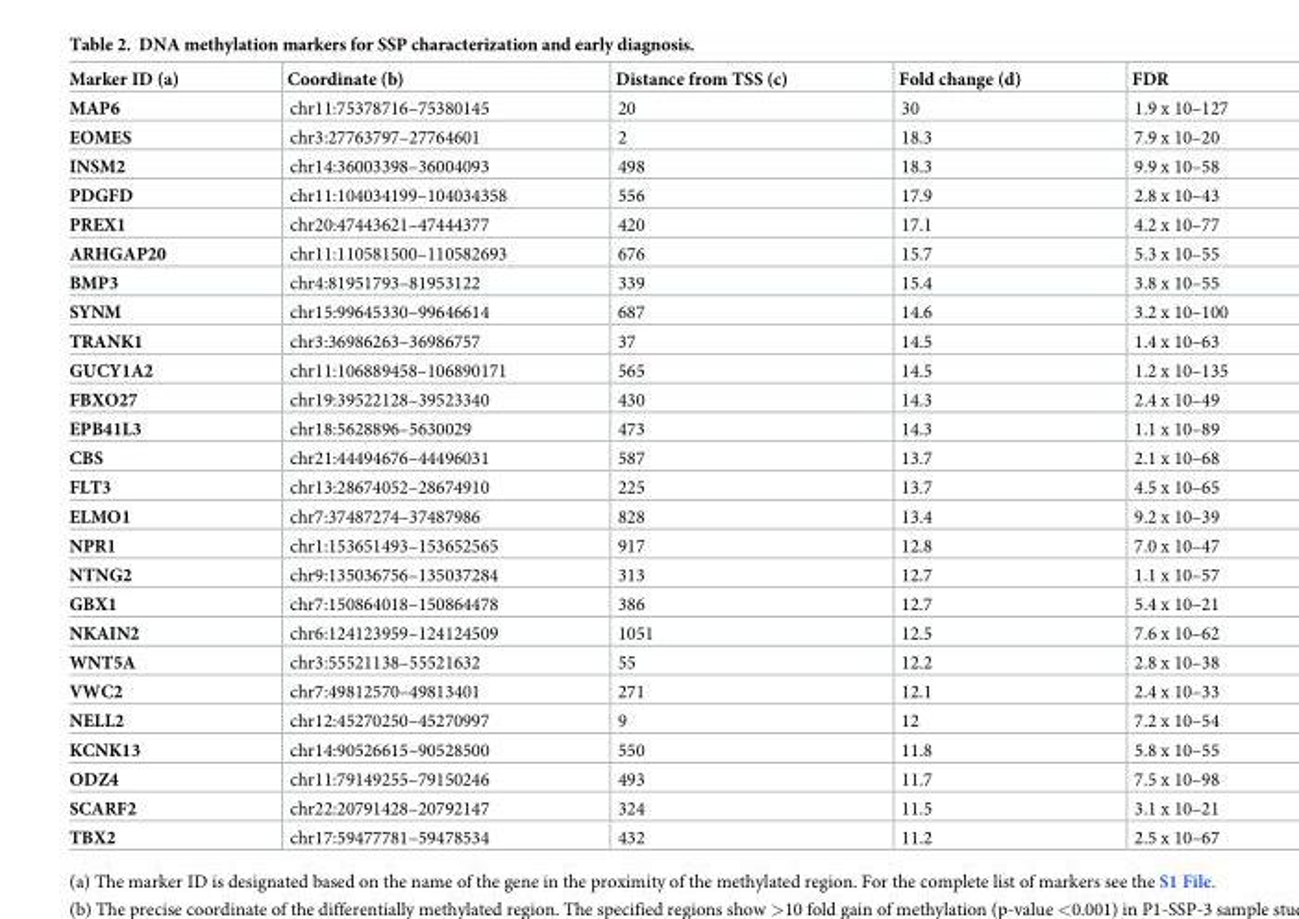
<table><thead><tr><td>Marker ID (a)</td><td>Coordinate (b)</td><td>Distance from TSS (c)</td><td>Fold change (d)</td><td>FDR</td></tr></thead><tbody><tr><td>MAP6</td><td>chr11:75378716–75380145</td><td>20</td><td>30</td><td>1.9 x 10–127</td></tr><tr><td>EOMES</td><td>chr3:27763797–27764601</td><td>2</td><td>18.3</td><td>7.9 x 10–20</td></tr><tr><td>INSM2</td><td>chr14:36003398–36004093</td><td>498</td><td>18.3</td><td>9.9 x 10–58</td></tr><tr><td>PDGFD</td><td>chr11:104034199–104034358</td><td>556</td><td>17.9</td><td>2.8 x 10–43</td></tr><tr><td>PREX1</td><td>chr20:47443621–47444377</td><td>420</td><td>17.1</td><td>4.2 x 10–77</td></tr><tr><td>ARHGAP20</td><td>chr11:110581500–110582693</td><td>676</td><td>15.7</td><td>5.3 x 10–55</td></tr><tr><td>BMP3</td><td>chr4:81951793–81953122</td><td>339</td><td>15.4</td><td>3.8 x 10–55</td></tr><tr><td>SYNM</td><td>chr15:99645330–99646614</td><td>687</td><td>14.6</td><td>3.2 x 10–100</td></tr><tr><td>TRANK1</td><td>chr3:36986263–36986757</td><td>37</td><td>14.5</td><td>1.4 x 10–63</td></tr><tr><td>GUCY1A2</td><td>chr11:106889458–106890171</td><td>565</td><td>14.5</td><td>1.2 x 10–135</td></tr><tr><td>FBXO27</td><td>chr19:39522128–39523340</td><td>430</td><td>14.3</td><td>2.4 x 10–49</td></tr><tr><td>EPB41L3</td><td>chr18:5628896–5630029</td><td>473</td><td>14.3</td><td>1.1 x 10–89</td></tr><tr><td>CBS</td><td>chr21:44494676–44496031</td><td>587</td><td>13.7</td><td>2.1 x 10–68</td></tr><tr><td>FLT3</td><td>chr13:28674052–28674910</td><td>225</td><td>13.7</td><td>4.5 x 10–65</td></tr><tr><td>ELMO1</td><td>chr7:37487274–37487986</td><td>828</td><td>13.4</td><td>9.2 x 10–39</td></tr><tr><td>NPR1</td><td>chr1:153651493–153652565</td><td>917</td><td>12.8</td><td>7.0 x 10–47</td></tr><tr><td>NTNG2</td><td>chr9:135036756–135037284</td><td>313</td><td>12.7</td><td>1.1 x 10–57</td></tr><tr><td>GBX1</td><td>chr7:150864018–150864478</td><td>386</td><td>12.7</td><td>5.4 x 10–21</td></tr><tr><td>NKAIN2</td><td>chr6:124123959–124124509</td><td>1051</td><td>12.5</td><td>7.6 x 10–62</td></tr><tr><td>WNT5A</td><td>chr3:55521138–55521632</td><td>55</td><td>12.2</td><td>2.8 x 10–38</td></tr><tr><td>VWC2</td><td>chr7:49812570–49813401</td><td>271</td><td>12.1</td><td>2.4 x 10–33</td></tr><tr><td>NELL2</td><td>chr12:45270250–45270997</td><td>9</td><td>12</td><td>7.2 x 10–54</td></tr><tr><td>KCNK13</td><td>chr14:90526615–90528500</td><td>550</td><td>11.8</td><td>5.8 x 10–55</td></tr><tr><td>ODZ4</td><td>chr11:79149255–79150246</td><td>493</td><td>11.7</td><td>7.5 x 10–98</td></tr><tr><td>SCARF2</td><td>chr22:20791428–20792147</td><td>324</td><td>11.5</td><td>3.1 x 10–21</td></tr><tr><td>TBX2</td><td>chr17:59477781–59478534</td><td>432</td><td>11.2</td><td>2.5 x 10–67</td></tr></tbody></table>